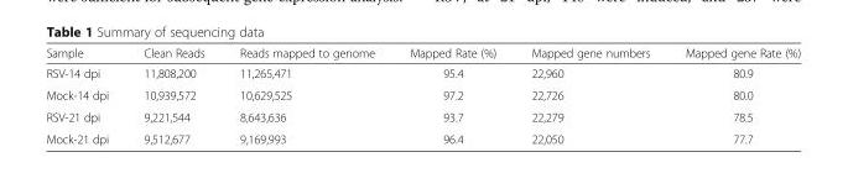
<table><thead><tr><td>Sample</td><td>Clean Reads</td><td>Reads mapped to genome</td><td>Mapped Rate (%)</td><td>Mapped gene numbers</td><td>Mapped gene Rate (%)</td></tr></thead><tbody><tr><td>RSV-14 dpi</td><td>11,808,200</td><td>11,265,471</td><td>95.4</td><td>22,960</td><td>80.9</td></tr><tr><td>Mock-14 dpi</td><td>10,939,572</td><td>10,629,525</td><td>97.2</td><td>22,726</td><td>80.0</td></tr><tr><td>RSV-21 dpi</td><td>9,221,544</td><td>8,643,636</td><td>93.7</td><td>22,279</td><td>78.5</td></tr><tr><td>Mock-21 dpi</td><td>9,512,677</td><td>9,169,993</td><td>96.4</td><td>22,050</td><td>77.7</td></tr></tbody></table>